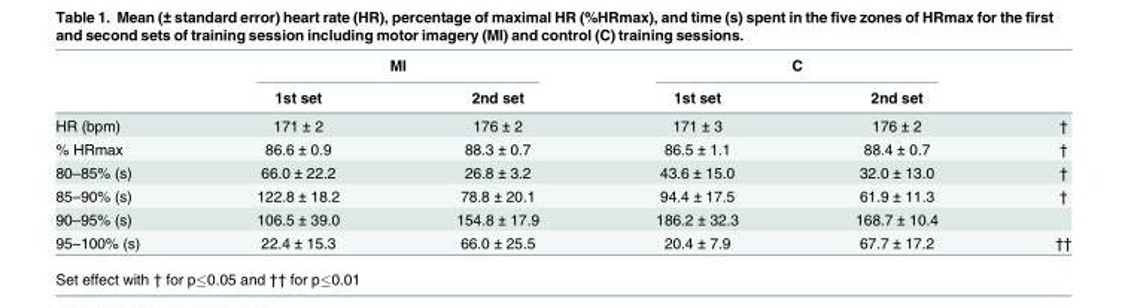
<table><thead><tr><td rowspan="2"></td><td colspan="2">MI</td><td colspan="2">C</td><td rowspan="2"></td></tr><tr><td>1st set</td><td>2nd set</td><td>1st set</td><td>2nd set</td></tr></thead><tbody><tr><td>HR (bpm)</td><td>171 ± 2</td><td>176 ± 2</td><td>171 ± 3</td><td>176 ± 2</td><td>†</td></tr><tr><td>% HRmax</td><td>86.6 ± 0.9</td><td>88.3 ± 0.7</td><td>86.5 ± 1.1</td><td>88.4 ± 0.7</td><td>†</td></tr><tr><td>80–85% (s)</td><td>66.0 ± 22.2</td><td>26.8 ± 3.2</td><td>43.6 ± 15.0</td><td>32.0 ± 13.0</td><td>†</td></tr><tr><td>85–90% (s)</td><td>122.8 ± 18.2</td><td>78.8 ± 20.1</td><td>94.4 ± 17.5</td><td>61.9 ± 11.3</td><td>†</td></tr><tr><td>90–95% (s)</td><td>106.5 ± 39.0</td><td>154.8 ± 17.9</td><td>186.2 ± 32.3</td><td>168.7 ± 10.4</td><td></td></tr><tr><td>95–100% (s)</td><td>22.4 ± 15.3</td><td>66.0 ± 25.5</td><td>20.4 ± 7.9</td><td>67.7 ± 17.2</td><td>††</td></tr></tbody></table>